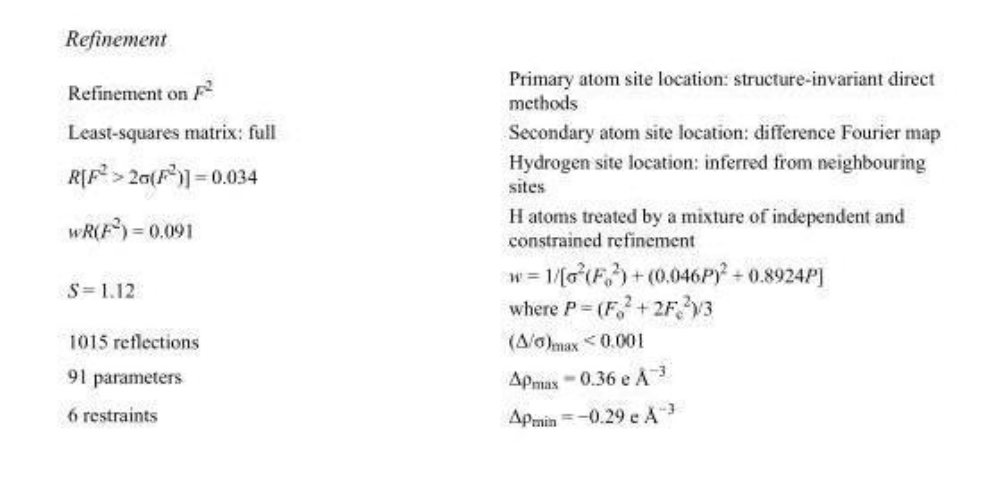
<table><tbody><tr><td>Refinement on F<sup>2</sup></td><td>Primary atom site location: structure-invariant direct methods</td></tr><tr><td>Least-squares matrix: full</td><td>Secondary atom site location: difference Fourier map</td></tr><tr><td>R[F<sup>2</sup> &gt; 2σ(F<sup>2</sup>)] = 0.034</td><td>Hydrogen site location: inferred from neighbouring sites</td></tr><tr><td>wR(F<sup>2</sup>) = 0.091</td><td>H atoms treated by a mixture of independent and constrained refinement</td></tr><tr><td>S = 1.12</td><td>w = 1/[σ<sup>2</sup>(F<sub>o</sub> <sup>2</sup>) + (0.046P)<sup>2</sup> + 0.8924P] where P = (F<sub>o</sub> <sup>2</sup> + 2F<sub>c</sub> <sup>2</sup>)/3</td></tr><tr><td>1015 reflections</td><td>(Δ/σ)<sub>max</sub> &lt; 0.001</td></tr><tr><td>91 parameters</td><td>Δρ<sub>max</sub> = 0.36 e Å<sup>−3</sup></td></tr><tr><td>6 restraints</td><td>Δρ<sub>min</sub> = −0.29 e Å<sup>−3</sup></td></tr></tbody></table>